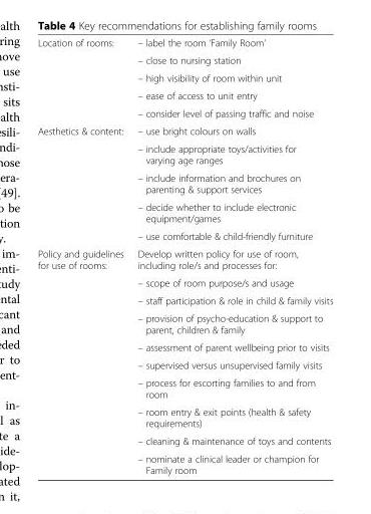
<table><tbody><tr><td rowspan="5">Location of rooms:</td><td>– label the room ‘Family Room’</td></tr><tr><td>– close to nursing station</td></tr><tr><td>– high visibility of room within unit</td></tr><tr><td>– ease of access to unit entry</td></tr><tr><td>– consider level of passing traffic and noise</td></tr><tr><td rowspan="5">Aesthetics &amp; content:</td><td>– use bright colours on walls</td></tr><tr><td>– include appropriate toys/activities for varying age ranges</td></tr><tr><td>– include information and brochures on parenting &amp; support services</td></tr><tr><td>– decide whether to include electronic equipment/games</td></tr><tr><td>– use comfortable &amp; child-friendly furniture</td></tr><tr><td rowspan="10">Policy and guidelines for use of rooms:</td><td>Develop written policy for use of room, including role/s and processes for:</td></tr><tr><td>– scope of room purpose/s and usage</td></tr><tr><td>– staff participation &amp; role in child &amp; family visits</td></tr><tr><td>– provision of psycho-education &amp; support to parent, children &amp; family</td></tr><tr><td>– assessment of parent wellbeing prior to visits</td></tr><tr><td>– supervised versus unsupervised family visits</td></tr><tr><td>– process for escorting families to and from room</td></tr><tr><td>– room entry &amp; exit points (health &amp; safety requirements)</td></tr><tr><td>– cleaning &amp; maintenance of toys and contents</td></tr><tr><td>– nominate a clinical leader or champion for Family room</td></tr></tbody></table>